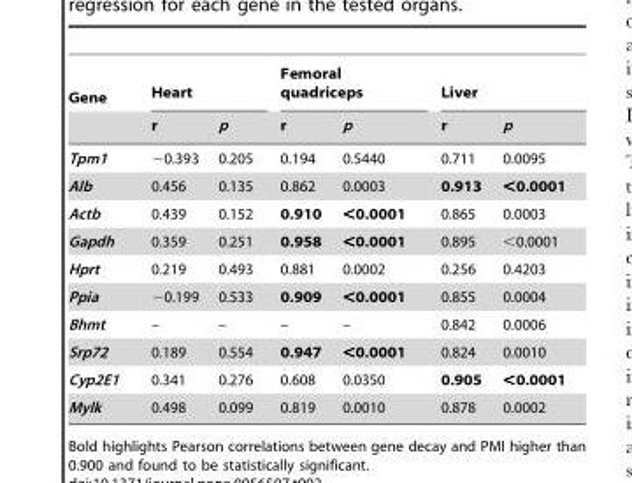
<table><thead><tr><td rowspan="2">Gene</td><td colspan="2">Heart</td><td colspan="2">Femoral quadriceps</td><td colspan="2">Liver</td></tr><tr><td>r</td><td>p</td><td>r</td><td>p</td><td>r</td><td>p</td></tr></thead><tbody><tr><td>Tpm1</td><td>−0.393</td><td>0.205</td><td>0.194</td><td>0.5440</td><td>0.711</td><td>0.0095</td></tr><tr><td>Alb</td><td>0.456</td><td>0.135</td><td>0.862</td><td>0.0003</td><td>0.913</td><td>&lt;0.0001</td></tr><tr><td>Actb</td><td>0.439</td><td>0.152</td><td>0.910</td><td>&lt;0.0001</td><td>0.865</td><td>0.0003</td></tr><tr><td>Gapdh</td><td>0.359</td><td>0.251</td><td>0.958</td><td>&lt;0.0001</td><td>0.895</td><td>&lt;0.0001</td></tr><tr><td>Hprt</td><td>0.219</td><td>0.493</td><td>0.881</td><td>0.0002</td><td>0.256</td><td>0.4203</td></tr><tr><td>Ppia</td><td>−0.199</td><td>0.533</td><td>0.909</td><td>&lt;0.0001</td><td>0.855</td><td>0.0004</td></tr><tr><td>Bhmt</td><td>–</td><td>–</td><td>–</td><td>–</td><td>0.842</td><td>0.0006</td></tr><tr><td>Srp72</td><td>0.189</td><td>0.554</td><td>0.947</td><td>&lt;0.0001</td><td>0.824</td><td>0.0010</td></tr><tr><td>Cyp2E1</td><td>0.341</td><td>0.276</td><td>0.608</td><td>0.0350</td><td>0.905</td><td>&lt;0.0001</td></tr><tr><td>Mylk</td><td>0.498</td><td>0.099</td><td>0.819</td><td>0.0010</td><td>0.878</td><td>0.0002</td></tr></tbody></table>